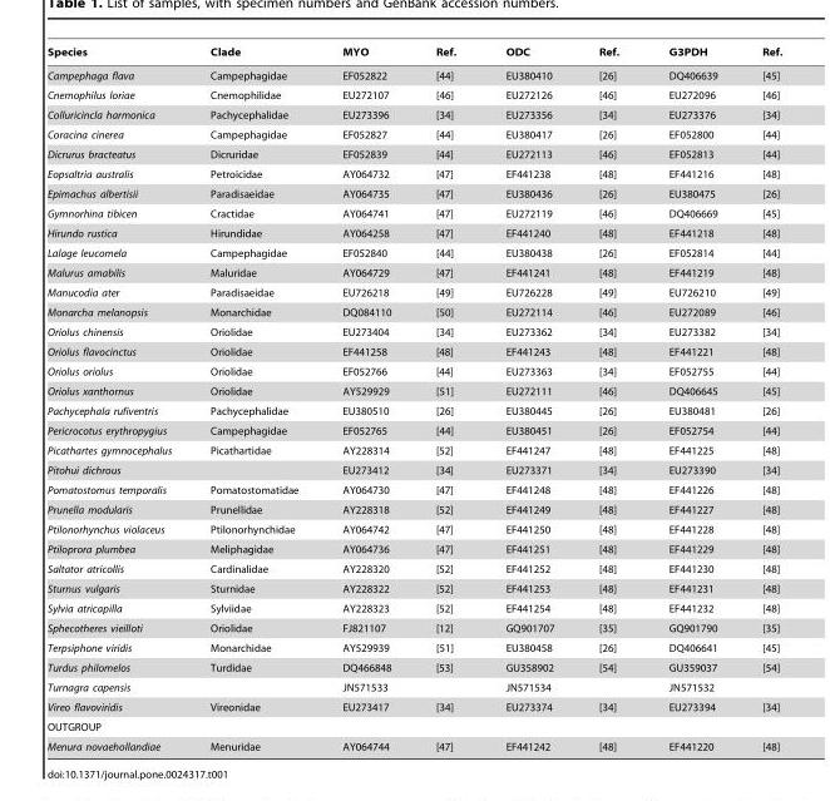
<table><thead><tr><td>Species</td><td>Clade</td><td>MYO</td><td>Ref.</td><td>ODC</td><td>Ref.</td><td>G3PDH</td><td>Ref.</td></tr></thead><tbody><tr><td>Campephaga flava</td><td>Campephagidae</td><td>EF052822</td><td>[44]</td><td>EU380410</td><td>[26]</td><td>DQ406639</td><td>[45]</td></tr><tr><td>Cnemophilus loriae</td><td>Cnemophilidae</td><td>EU272107</td><td>[46]</td><td>EU272126</td><td>[46]</td><td>EU272096</td><td>[46]</td></tr><tr><td>Colluricincla harmonica</td><td>Pachycephalidae</td><td>EU273396</td><td>[34]</td><td>EU273356</td><td>[34]</td><td>EU273376</td><td>[34]</td></tr><tr><td>Coracina cinerea</td><td>Campephagidae</td><td>EF052827</td><td>[44]</td><td>EU380417</td><td>[26]</td><td>EF052800</td><td>[44]</td></tr><tr><td>Dicrurus bracteatus</td><td>Dicruridae</td><td>EF052839</td><td>[44]</td><td>EU272113</td><td>[46]</td><td>EF052813</td><td>[44]</td></tr><tr><td>Eopsaltria australis</td><td>Petroicidae</td><td>AY064732</td><td>[47]</td><td>EF441238</td><td>[48]</td><td>EF441216</td><td>[48]</td></tr><tr><td>Epimachus albertisii</td><td>Paradisaeidae</td><td>AY064735</td><td>[47]</td><td>EU380436</td><td>[26]</td><td>EU380475</td><td>[26]</td></tr><tr><td>Gymnorhina tibicen</td><td>Cractidae</td><td>AY064741</td><td>[47]</td><td>EU272119</td><td>[46]</td><td>DQ406669</td><td>[45]</td></tr><tr><td>Hirundo rustica</td><td>Hirundidae</td><td>AY064258</td><td>[47]</td><td>EF441240</td><td>[48]</td><td>EF441218</td><td>[48]</td></tr><tr><td>Lalage leucomela</td><td>Campephagidae</td><td>EF052840</td><td>[44]</td><td>EU380438</td><td>[26]</td><td>EF052814</td><td>[44]</td></tr><tr><td>Malurus amabilis</td><td>Maluridae</td><td>AY064729</td><td>[47]</td><td>EF441241</td><td>[48]</td><td>EF441219</td><td>[48]</td></tr><tr><td>Manucodia ater</td><td>Paradisaeidae</td><td>EU726218</td><td>[49]</td><td>EU726228</td><td>[49]</td><td>EU726210</td><td>[49]</td></tr><tr><td>Monarcha melanopsis</td><td>Monarchidae</td><td>DQ084110</td><td>[50]</td><td>EU272114</td><td>[46]</td><td>EU272089</td><td>[46]</td></tr><tr><td>Oriolus chinensis</td><td>Oriolidae</td><td>EU273404</td><td>[34]</td><td>EU273362</td><td>[34]</td><td>EU273382</td><td>[34]</td></tr><tr><td>Oriolus flavocinctus</td><td>Oriolidae</td><td>EF441258</td><td>[48]</td><td>EF441243</td><td>[48]</td><td>EF441221</td><td>[48]</td></tr><tr><td>Oriolus oriolus</td><td>Oriolidae</td><td>EF052766</td><td>[44]</td><td>EU273363</td><td>[34]</td><td>EF052755</td><td>[44]</td></tr><tr><td>Oriolus xanthornus</td><td>Oriolidae</td><td>AY529929</td><td>[51]</td><td>EU272111</td><td>[46]</td><td>DQ406645</td><td>[45]</td></tr><tr><td>Pachycephala rufiventris</td><td>Pachycephalidae</td><td>EU380510</td><td>[26]</td><td>EU380445</td><td>[26]</td><td>EU380481</td><td>[26]</td></tr><tr><td>Pericrocotus erythropygius</td><td>Campephagidae</td><td>EF052765</td><td>[44]</td><td>EU380451</td><td>[26]</td><td>EF052754</td><td>[44]</td></tr><tr><td>Picathartes gymnocephalus</td><td>Picathartidae</td><td>AY228314</td><td>[52]</td><td>EF441247</td><td>[48]</td><td>EF441225</td><td>[48]</td></tr><tr><td>Pitohui dichrous</td><td></td><td>EU273412</td><td>[34]</td><td>EU273371</td><td>[34]</td><td>EU273390</td><td>[34]</td></tr><tr><td>Pomatostomus temporalis</td><td>Pomatostomatidae</td><td>AY064730</td><td>[47]</td><td>EF441248</td><td>[48]</td><td>EF441226</td><td>[48]</td></tr><tr><td>Prunella modularis</td><td>Prunellidae</td><td>AY228318</td><td>[52]</td><td>EF441249</td><td>[48]</td><td>EF441227</td><td>[48]</td></tr><tr><td>Ptilonorhynchus violaceus</td><td>Ptilonorhynchidae</td><td>AY064742</td><td>[47]</td><td>EF441250</td><td>[48]</td><td>EF441228</td><td>[48]</td></tr><tr><td>Ptiloprora plumbea</td><td>Meliphagidae</td><td>AY064736</td><td>[47]</td><td>EF441251</td><td>[48]</td><td>EF441229</td><td>[48]</td></tr><tr><td>Saltator atricollis</td><td>Cardinalidae</td><td>AY228320</td><td>[52]</td><td>EF441252</td><td>[48]</td><td>EF441230</td><td>[48]</td></tr><tr><td>Sturnus vulgaris</td><td>Sturnidae</td><td>AY228322</td><td>[52]</td><td>EF441253</td><td>[48]</td><td>EF441231</td><td>[48]</td></tr><tr><td>Sylvia atricapilla</td><td>Sylviidae</td><td>AY228323</td><td>[52]</td><td>EF441254</td><td>[48]</td><td>EF441232</td><td>[48]</td></tr><tr><td>Sphecotheres vieilloti</td><td>Oriolidae</td><td>FJ821107</td><td>[12]</td><td>GQ901707</td><td>[35]</td><td>GQ901790</td><td>[35]</td></tr><tr><td>Terpsiphone viridis</td><td>Monarchidae</td><td>AY529939</td><td>[51]</td><td>EU380458</td><td>[26]</td><td>DQ406641</td><td>[45]</td></tr><tr><td>Turdus philomelos</td><td>Turdidae</td><td>DQ466848</td><td>[53]</td><td>GU358902</td><td>[54]</td><td>GU359037</td><td>[54]</td></tr><tr><td>Turnagra capensis</td><td></td><td>JN571533</td><td></td><td>JN571534</td><td></td><td>JN571532</td><td></td></tr><tr><td>Vireo flavoviridis</td><td>Vireonidae</td><td>EU273417</td><td>[34]</td><td>EU273374</td><td>[34]</td><td>EU273394</td><td>[34]</td></tr><tr><td colspan="8">OUTGROUP</td></tr><tr><td>Menura novaehollandiae</td><td>Menuridae</td><td>AY064744</td><td>[47]</td><td>EF441242</td><td>[48]</td><td>EF441220</td><td>[48]</td></tr></tbody></table>